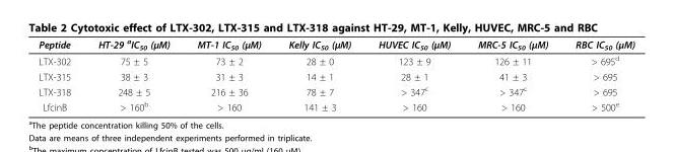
<table><thead><tr><td>Peptide</td><td>HT-29 <sup>a</sup>IC<sub>50</sub> (μM)</td><td>MT-1 IC<sub>50</sub> (μM)</td><td>Kelly IC<sub>50</sub> (μM)</td><td>HUVEC IC<sub>50</sub> (μM)</td><td>MRC-5 IC<sub>50</sub> (μM)</td><td>RBC IC<sub>50</sub> (μM)</td></tr></thead><tbody><tr><td>LTX-302</td><td>75 ± 5</td><td>73 ± 2</td><td>28 ± 0</td><td>123 ± 9</td><td>126 ± 11</td><td>&gt; 695<sup>d</sup></td></tr><tr><td>LTX-315</td><td>38 ± 3</td><td>31 ± 3</td><td>14 ± 1</td><td>28 ± 1</td><td>41 ± 3</td><td>&gt; 695</td></tr><tr><td>LTX-318</td><td>248 ± 5</td><td>216 ± 36</td><td>78 ± 7</td><td>&gt; 347<sup>c</sup></td><td>&gt; 347<sup>c</sup></td><td>&gt; 695</td></tr><tr><td>LfcinB</td><td>&gt; 160<sup>b</sup></td><td>&gt; 160</td><td>141 ± 3</td><td>&gt; 160</td><td>&gt; 160</td><td>&gt; 500<sup>e</sup></td></tr></tbody></table>